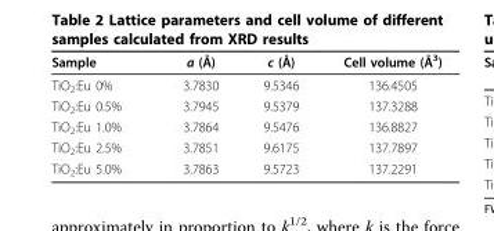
<table><thead><tr><td>Sample</td><td>a (Å)</td><td>c (Å)</td><td>Cell volume (Å<sup>3</sup>)</td></tr></thead><tbody><tr><td>TiO<sub>2</sub>:Eu 0%</td><td>3.7830</td><td>9.5346</td><td>136.4505</td></tr><tr><td>TiO<sub>2</sub>:Eu 0.5%</td><td>3.7945</td><td>9.5379</td><td>137.3288</td></tr><tr><td>TiO<sub>2</sub>:Eu 1.0%</td><td>3.7864</td><td>9.5476</td><td>136.8827</td></tr><tr><td>TiO<sub>2</sub>:Eu 2.5%</td><td>3.7851</td><td>9.6175</td><td>137.7897</td></tr><tr><td>TiO<sub>2</sub>:Eu 5.0%</td><td>3.7863</td><td>9.5723</td><td>137.2291</td></tr></tbody></table>